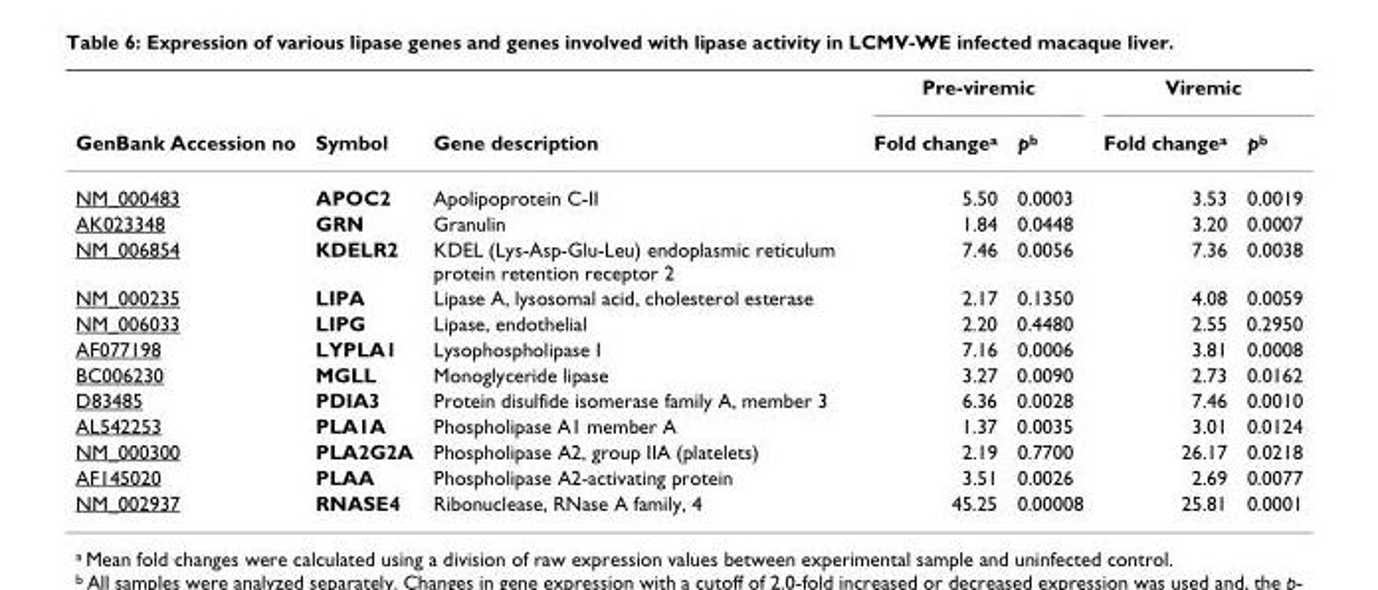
<table><thead><tr><td rowspan="2">GenBank Accession no</td><td rowspan="2">Symbol</td><td rowspan="2">Gene description</td><td colspan="2">Pre-viremic</td><td colspan="2">Viremic</td></tr><tr><td>Fold change<sup>a</sup></td><td>p<sup>b</sup></td><td>Fold change<sup>a</sup></td><td>p<sup>b</sup></td></tr></thead><tbody><tr><td>NM_000483</td><td>APOC2</td><td>Apolipoprotein C-II</td><td>5.50</td><td>0.0003</td><td>3.53</td><td>0.0019</td></tr><tr><td>AK023348</td><td>GRN</td><td>Granulin</td><td>1.84</td><td>0.0448</td><td>3.20</td><td>0.0007</td></tr><tr><td>NM_006854</td><td>KDELR2</td><td>KDEL (Lys-Asp-Glu-Leu) endoplasmic reticulum protein retention receptor 2</td><td>7.46</td><td>0.0056</td><td>7.36</td><td>0.0038</td></tr><tr><td>NM_000235</td><td>LIPA</td><td>Lipase A, lysosomal acid, cholesterol esterase</td><td>2.17</td><td>0.1350</td><td>4.08</td><td>0.0059</td></tr><tr><td>NM_006033</td><td>LIPG</td><td>Lipase, endothelial</td><td>2.20</td><td>0.4480</td><td>2.55</td><td>0.2950</td></tr><tr><td>AF077198</td><td>LYPLA1</td><td>Lysophospholipase I</td><td>7.16</td><td>0.0006</td><td>3.81</td><td>0.0008</td></tr><tr><td>BC006230</td><td>MGLL</td><td>Monoglyceride lipase</td><td>3.27</td><td>0.0090</td><td>2.73</td><td>0.0162</td></tr><tr><td>D83485</td><td>PDIA3</td><td>Protein disulfide isomerase family A, member 3</td><td>6.36</td><td>0.0028</td><td>7.46</td><td>0.0010</td></tr><tr><td>AL542253</td><td>PLA1A</td><td>Phospholipase A1 member A</td><td>1.37</td><td>0.0035</td><td>3.01</td><td>0.0124</td></tr><tr><td>NM_000300</td><td>PLA2G2A</td><td>Phospholipase A2, group IIA (platelets)</td><td>2.19</td><td>0.7700</td><td>26.17</td><td>0.0218</td></tr><tr><td>AF145020</td><td>PLAA</td><td>Phospholipase A2-activating protein</td><td>3.51</td><td>0.0026</td><td>2.69</td><td>0.0077</td></tr><tr><td>NM_002937</td><td>RNASE4</td><td>Ribonuclease, RNase A family, 4</td><td>45.25</td><td>0.00008</td><td>25.81</td><td>0.0001</td></tr></tbody></table>